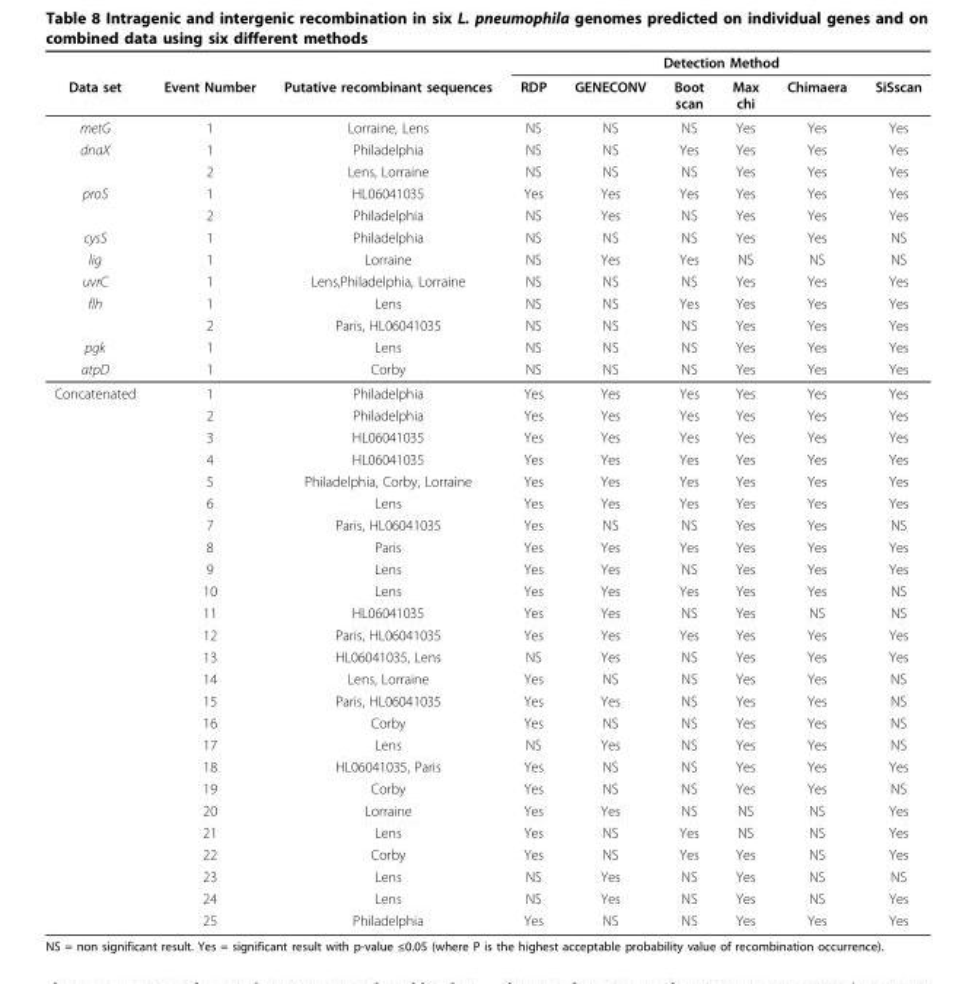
<table><thead><tr><td rowspan="2">Data set</td><td rowspan="2">Event Number</td><td rowspan="2">Putative recombinant sequences</td><td colspan="6">Detection Method</td></tr><tr><td>RDP</td><td>GENECONV</td><td>Boot scan</td><td>Max chi</td><td>Chimaera</td><td>SiSscan</td></tr></thead><tbody><tr><td>metG</td><td>1</td><td>Lorraine, Lens</td><td>NS</td><td>NS</td><td>NS</td><td>Yes</td><td>Yes</td><td>Yes</td></tr><tr><td rowspan="2">dnaX</td><td>1</td><td>Philadelphia</td><td>NS</td><td>NS</td><td>Yes</td><td>Yes</td><td>Yes</td><td>Yes</td></tr><tr><td>2</td><td>Lens, Lorraine</td><td>NS</td><td>NS</td><td>NS</td><td>Yes</td><td>Yes</td><td>Yes</td></tr><tr><td rowspan="2">proS</td><td>1</td><td>HL06041035</td><td>Yes</td><td>Yes</td><td>Yes</td><td>Yes</td><td>Yes</td><td>Yes</td></tr><tr><td>2</td><td>Philadelphia</td><td>NS</td><td>Yes</td><td>NS</td><td>Yes</td><td>Yes</td><td>Yes</td></tr><tr><td>cysS</td><td>1</td><td>Philadelphia</td><td>NS</td><td>NS</td><td>NS</td><td>Yes</td><td>Yes</td><td>NS</td></tr><tr><td>lig</td><td>1</td><td>Lorraine</td><td>NS</td><td>Yes</td><td>Yes</td><td>NS</td><td>NS</td><td>NS</td></tr><tr><td>uvrC</td><td>1</td><td>Lens,Philadelphia, Lorraine</td><td>NS</td><td>NS</td><td>NS</td><td>Yes</td><td>Yes</td><td>Yes</td></tr><tr><td rowspan="2">flh</td><td>1</td><td>Lens</td><td>NS</td><td>NS</td><td>Yes</td><td>Yes</td><td>Yes</td><td>Yes</td></tr><tr><td>2</td><td>Paris, HL06041035</td><td>NS</td><td>NS</td><td>NS</td><td>Yes</td><td>Yes</td><td>Yes</td></tr><tr><td>pgk</td><td>1</td><td>Lens</td><td>NS</td><td>NS</td><td>NS</td><td>Yes</td><td>Yes</td><td>Yes</td></tr><tr><td>atpD</td><td>1</td><td>Corby</td><td>NS</td><td>NS</td><td>NS</td><td>Yes</td><td>Yes</td><td>Yes</td></tr><tr><td rowspan="25">Concatenated</td><td>1</td><td>Philadelphia</td><td>Yes</td><td>Yes</td><td>Yes</td><td>Yes</td><td>Yes</td><td>Yes</td></tr><tr><td>2</td><td>Philadelphia</td><td>Yes</td><td>Yes</td><td>Yes</td><td>Yes</td><td>Yes</td><td>Yes</td></tr><tr><td>3</td><td>HL06041035</td><td>Yes</td><td>Yes</td><td>Yes</td><td>Yes</td><td>Yes</td><td>Yes</td></tr><tr><td>4</td><td>HL06041035</td><td>Yes</td><td>Yes</td><td>Yes</td><td>Yes</td><td>Yes</td><td>Yes</td></tr><tr><td>5</td><td>Philadelphia, Corby, Lorraine</td><td>Yes</td><td>Yes</td><td>Yes</td><td>Yes</td><td>Yes</td><td>Yes</td></tr><tr><td>6</td><td>Lens</td><td>Yes</td><td>Yes</td><td>Yes</td><td>Yes</td><td>Yes</td><td>Yes</td></tr><tr><td>7</td><td>Paris, HL06041035</td><td>Yes</td><td>NS</td><td>NS</td><td>Yes</td><td>Yes</td><td>NS</td></tr><tr><td>8</td><td>Paris</td><td>Yes</td><td>Yes</td><td>Yes</td><td>Yes</td><td>Yes</td><td>Yes</td></tr><tr><td>9</td><td>Lens</td><td>Yes</td><td>Yes</td><td>NS</td><td>Yes</td><td>Yes</td><td>Yes</td></tr><tr><td>10</td><td>Lens</td><td>Yes</td><td>Yes</td><td>Yes</td><td>Yes</td><td>Yes</td><td>NS</td></tr><tr><td>11</td><td>HL06041035</td><td>Yes</td><td>Yes</td><td>NS</td><td>Yes</td><td>NS</td><td>NS</td></tr><tr><td>12</td><td>Paris, HL06041035</td><td>Yes</td><td>Yes</td><td>Yes</td><td>Yes</td><td>Yes</td><td>Yes</td></tr><tr><td>13</td><td>HL06041035, Lens</td><td>NS</td><td>Yes</td><td>NS</td><td>Yes</td><td>Yes</td><td>Yes</td></tr><tr><td>14</td><td>Lens, Lorraine</td><td>Yes</td><td>NS</td><td>NS</td><td>Yes</td><td>Yes</td><td>NS</td></tr><tr><td>15</td><td>Paris, HL06041035</td><td>Yes</td><td>Yes</td><td>NS</td><td>Yes</td><td>Yes</td><td>NS</td></tr><tr><td>16</td><td>Corby</td><td>Yes</td><td>NS</td><td>NS</td><td>Yes</td><td>Yes</td><td>NS</td></tr><tr><td>17</td><td>Lens</td><td>NS</td><td>Yes</td><td>NS</td><td>Yes</td><td>Yes</td><td>NS</td></tr><tr><td>18</td><td>HL06041035, Paris</td><td>Yes</td><td>NS</td><td>NS</td><td>Yes</td><td>Yes</td><td>Yes</td></tr><tr><td>19</td><td>Corby</td><td>Yes</td><td>NS</td><td>NS</td><td>Yes</td><td>Yes</td><td>NS</td></tr><tr><td>20</td><td>Lorraine</td><td>Yes</td><td>Yes</td><td>NS</td><td>NS</td><td>NS</td><td>Yes</td></tr><tr><td>21</td><td>Lens</td><td>Yes</td><td>NS</td><td>Yes</td><td>NS</td><td>NS</td><td>Yes</td></tr><tr><td>22</td><td>Corby</td><td>Yes</td><td>NS</td><td>Yes</td><td>Yes</td><td>NS</td><td>Yes</td></tr><tr><td>23</td><td>Lens</td><td>NS</td><td>Yes</td><td>NS</td><td>Yes</td><td>NS</td><td>NS</td></tr><tr><td>24</td><td>Lens</td><td>NS</td><td>Yes</td><td>NS</td><td>Yes</td><td>NS</td><td>Yes</td></tr><tr><td>25</td><td>Philadelphia</td><td>Yes</td><td>NS</td><td>NS</td><td>Yes</td><td>Yes</td><td>Yes</td></tr></tbody></table>